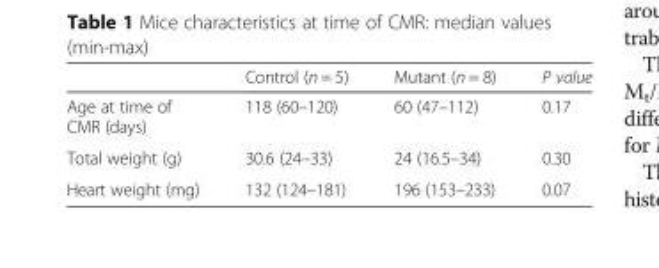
<table><thead><tr><td></td><td>Control (n = 5)</td><td>Mutant (n = 8)</td><td>P value</td></tr></thead><tbody><tr><td>Age at time of CMR (days)</td><td>118 (60–120)</td><td>60 (47–112)</td><td>0.17</td></tr><tr><td>Total weight (g)</td><td>30.6 (24–33)</td><td>24 (16.5–34)</td><td>0.30</td></tr><tr><td>Heart weight (mg)</td><td>132 (124–181)</td><td>196 (153–233)</td><td>0.07</td></tr></tbody></table>